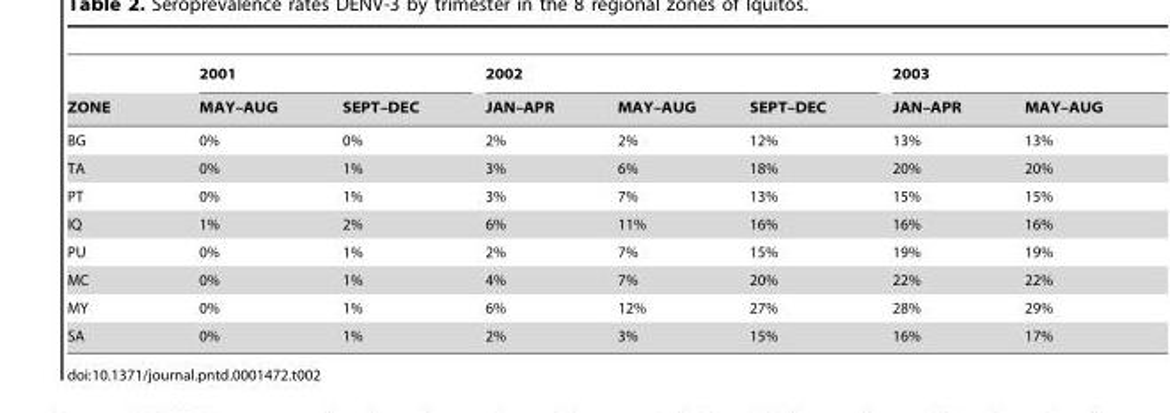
<table><thead><tr><td rowspan="2">ZONE</td><td colspan="2">2001</td><td colspan="3">2002</td><td colspan="2">2003</td></tr><tr><td>MAY–AUG</td><td>SEPT–DEC</td><td>JAN–APR</td><td>MAY–AUG</td><td>SEPT–DEC</td><td>JAN–APR</td><td>MAY–AUG</td></tr></thead><tbody><tr><td>BG</td><td>0%</td><td>0%</td><td>2%</td><td>2%</td><td>12%</td><td>13%</td><td>13%</td></tr><tr><td>TA</td><td>0%</td><td>1%</td><td>3%</td><td>6%</td><td>18%</td><td>20%</td><td>20%</td></tr><tr><td>PT</td><td>0%</td><td>1%</td><td>3%</td><td>7%</td><td>13%</td><td>15%</td><td>15%</td></tr><tr><td>IQ</td><td>1%</td><td>2%</td><td>6%</td><td>11%</td><td>16%</td><td>16%</td><td>16%</td></tr><tr><td>PU</td><td>0%</td><td>1%</td><td>2%</td><td>7%</td><td>15%</td><td>19%</td><td>19%</td></tr><tr><td>MC</td><td>0%</td><td>1%</td><td>4%</td><td>7%</td><td>20%</td><td>22%</td><td>22%</td></tr><tr><td>MY</td><td>0%</td><td>1%</td><td>6%</td><td>12%</td><td>27%</td><td>28%</td><td>29%</td></tr><tr><td>SA</td><td>0%</td><td>1%</td><td>2%</td><td>3%</td><td>15%</td><td>16%</td><td>17%</td></tr></tbody></table>